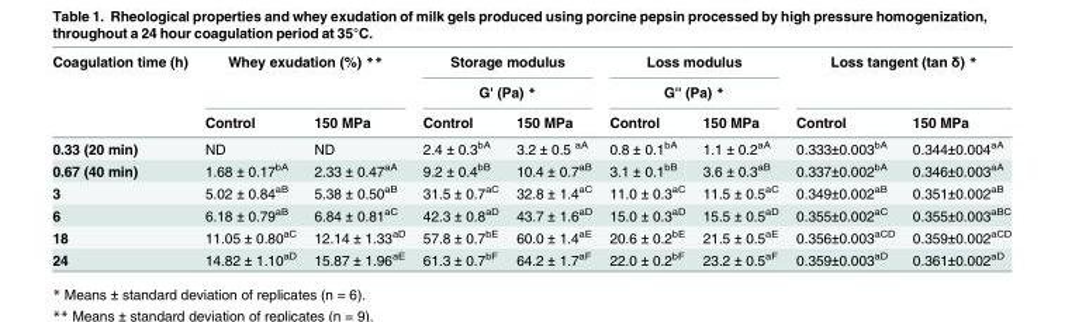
<table><thead><tr><td rowspan="3">Coagulation time (h)</td><td rowspan="2" colspan="2">Whey exudation (%) **</td><td rowspan="2" colspan="2">Storage modulus G&#x27; (Pa) *</td><td rowspan="2" colspan="2">Loss modulus G&#x27;&#x27; (Pa) *</td><td rowspan="2" colspan="2">Loss tangent (tan δ) *</td></tr><tr></tr><tr><td>Control</td><td>150 MPa</td><td>Control</td><td>150 MPa</td><td>Control</td><td>150 MPa</td><td>Control</td><td>150 MPa</td></tr></thead><tbody><tr><td>0.33 (20 min)</td><td>ND</td><td>ND</td><td>2.4 ± 0.3<sup>bA</sup></td><td>3.2 ± 0.5 <sup>aA</sup></td><td>0.8 ± 0.1<sup>bA</sup></td><td>1.1 ± 0.2<sup>aA</sup></td><td>0.333±0.003<sup>bA</sup></td><td>0.344±0.004<sup>aA</sup></td></tr><tr><td>0.67 (40 min)</td><td>1.68 ± 0.17<sup>bA</sup></td><td>2.33 ± 0.47<sup>aA</sup></td><td>9.2 ± 0.4<sup>bB</sup></td><td>10.4 ± 0.7<sup>aB</sup></td><td>3.1 ± 0.1<sup>bB</sup></td><td>3.6 ± 0.3<sup>aB</sup></td><td>0.337±0.002<sup>bA</sup></td><td>0.346±0.003<sup>aA</sup></td></tr><tr><td>3</td><td>5.02 ± 0.84<sup>aB</sup></td><td>5.38 ± 0.50<sup>aB</sup></td><td>31.5 ± 0.7<sup>aC</sup></td><td>32.8 ± 1.4<sup>aC</sup></td><td>11.0 ± 0.3<sup>aC</sup></td><td>11.5 ± 0.5<sup>aC</sup></td><td>0.349±0.002<sup>aB</sup></td><td>0.351±0.002<sup>aB</sup></td></tr><tr><td>6</td><td>6.18 ± 0.79<sup>aB</sup></td><td>6.84 ± 0.81<sup>aC</sup></td><td>42.3 ± 0.8<sup>aD</sup></td><td>43.7 ± 1.6<sup>aD</sup></td><td>15.0 ± 0.3<sup>aD</sup></td><td>15.5 ± 0.5<sup>aD</sup></td><td>0.355±0.002<sup>aC</sup></td><td>0.355±0.003<sup>aBC</sup></td></tr><tr><td>18</td><td>11.05 ± 0.80<sup>aC</sup></td><td>12.14 ± 1.33<sup>aD</sup></td><td>57.8 ± 0.7<sup>bE</sup></td><td>60.0 ± 1.4<sup>aE</sup></td><td>20.6 ± 0.2<sup>bE</sup></td><td>21.5 ± 0.5<sup>aE</sup></td><td>0.356±0.003<sup>aCD</sup></td><td>0.359±0.002<sup>aCD</sup></td></tr><tr><td>24</td><td>14.82 ± 1.10<sup>aD</sup></td><td>15.87 ± 1.96<sup>aE</sup></td><td>61.3 ± 0.7<sup>bF</sup></td><td>64.2 ± 1.7<sup>aF</sup></td><td>22.0 ± 0.2<sup>bF</sup></td><td>23.2 ± 0.5<sup>aF</sup></td><td>0.359±0.003<sup>aD</sup></td><td>0.361±0.002<sup>aD</sup></td></tr></tbody></table>